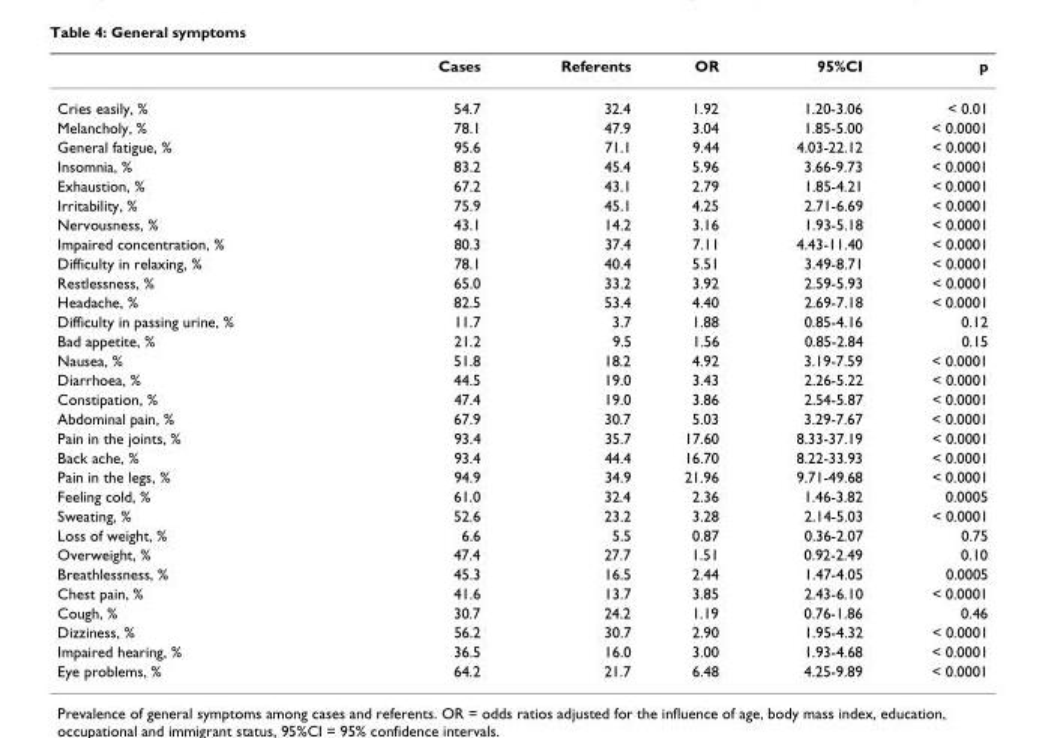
<table><thead><tr><td></td><td>Cases</td><td>Referents</td><td>OR</td><td>95%CI</td><td>p</td></tr></thead><tbody><tr><td>Cries easily, %</td><td>54.7</td><td>32.4</td><td>1.92</td><td>1.20-3.06</td><td>&lt; 0.01</td></tr><tr><td>Melancholy, %</td><td>78.1</td><td>47.9</td><td>3.04</td><td>1.85-5.00</td><td>&lt; 0.0001</td></tr><tr><td>General fatigue, %</td><td>95.6</td><td>71.1</td><td>9.44</td><td>4.03-22.12</td><td>&lt; 0.0001</td></tr><tr><td>Insomnia, %</td><td>83.2</td><td>45.4</td><td>5.96</td><td>3.66-9.73</td><td>&lt; 0.0001</td></tr><tr><td>Exhaustion, %</td><td>67.2</td><td>43.1</td><td>2.79</td><td>1.85-4.21</td><td>&lt; 0.0001</td></tr><tr><td>Irritability, %</td><td>75.9</td><td>45.1</td><td>4.25</td><td>2.71-6.69</td><td>&lt; 0.0001</td></tr><tr><td>Nervousness, %</td><td>43.1</td><td>14.2</td><td>3.16</td><td>1.93-5.18</td><td>&lt; 0.0001</td></tr><tr><td>Impaired concentration, %</td><td>80.3</td><td>37.4</td><td>7.11</td><td>4.43-11.40</td><td>&lt; 0.0001</td></tr><tr><td>Difficulty in relaxing, %</td><td>78.1</td><td>40.4</td><td>5.51</td><td>3.49-8.71</td><td>&lt; 0.0001</td></tr><tr><td>Restlessness, %</td><td>65.0</td><td>33.2</td><td>3.92</td><td>2.59-5.93</td><td>&lt; 0.0001</td></tr><tr><td>Headache, %</td><td>82.5</td><td>53.4</td><td>4.40</td><td>2.69-7.18</td><td>&lt; 0.0001</td></tr><tr><td>Difficulty in passing urine, %</td><td>11.7</td><td>3.7</td><td>1.88</td><td>0.85-4.16</td><td>0.12</td></tr><tr><td>Bad appetite, %</td><td>21.2</td><td>9.5</td><td>1.56</td><td>0.85-2.84</td><td>0.15</td></tr><tr><td>Nausea, %</td><td>51.8</td><td>18.2</td><td>4.92</td><td>3.19-7.59</td><td>&lt; 0.0001</td></tr><tr><td>Diarrhoea, %</td><td>44.5</td><td>19.0</td><td>3.43</td><td>2.26-5.22</td><td>&lt; 0.0001</td></tr><tr><td>Constipation, %</td><td>47.4</td><td>19.0</td><td>3.86</td><td>2.54-5.87</td><td>&lt; 0.0001</td></tr><tr><td>Abdominal pain, %</td><td>67.9</td><td>30.7</td><td>5.03</td><td>3.29-7.67</td><td>&lt; 0.0001</td></tr><tr><td>Pain in the joints, %</td><td>93.4</td><td>35.7</td><td>17.60</td><td>8.33-37.19</td><td>&lt; 0.0001</td></tr><tr><td>Back ache, %</td><td>93.4</td><td>44.4</td><td>16.70</td><td>8.22-33.93</td><td>&lt; 0.0001</td></tr><tr><td>Pain in the legs, %</td><td>94.9</td><td>34.9</td><td>21.96</td><td>9.71-49.68</td><td>&lt; 0.0001</td></tr><tr><td>Feeling cold, %</td><td>61.0</td><td>32.4</td><td>2.36</td><td>1.46-3.82</td><td>0.0005</td></tr><tr><td>Sweating, %</td><td>52.6</td><td>23.2</td><td>3.28</td><td>2.14-5.03</td><td>&lt; 0.0001</td></tr><tr><td>Loss of weight, %</td><td>6.6</td><td>5.5</td><td>0.87</td><td>0.36-2.07</td><td>0.75</td></tr><tr><td>Overweight, %</td><td>47.4</td><td>27.7</td><td>1.51</td><td>0.92-2.49</td><td>0.10</td></tr><tr><td>Breathlessness, %</td><td>45.3</td><td>16.5</td><td>2.44</td><td>1.47-4.05</td><td>0.0005</td></tr><tr><td>Chest pain, %</td><td>41.6</td><td>13.7</td><td>3.85</td><td>2.43-6.10</td><td>&lt; 0.0001</td></tr><tr><td>Cough, %</td><td>30.7</td><td>24.2</td><td>1.19</td><td>0.76-1.86</td><td>0.46</td></tr><tr><td>Dizziness, %</td><td>56.2</td><td>30.7</td><td>2.90</td><td>1.95-4.32</td><td>&lt; 0.0001</td></tr><tr><td>Impaired hearing, %</td><td>36.5</td><td>16.0</td><td>3.00</td><td>1.93-4.68</td><td>&lt; 0.0001</td></tr><tr><td>Eye problems, %</td><td>64.2</td><td>21.7</td><td>6.48</td><td>4.25-9.89</td><td>&lt; 0.0001</td></tr></tbody></table>